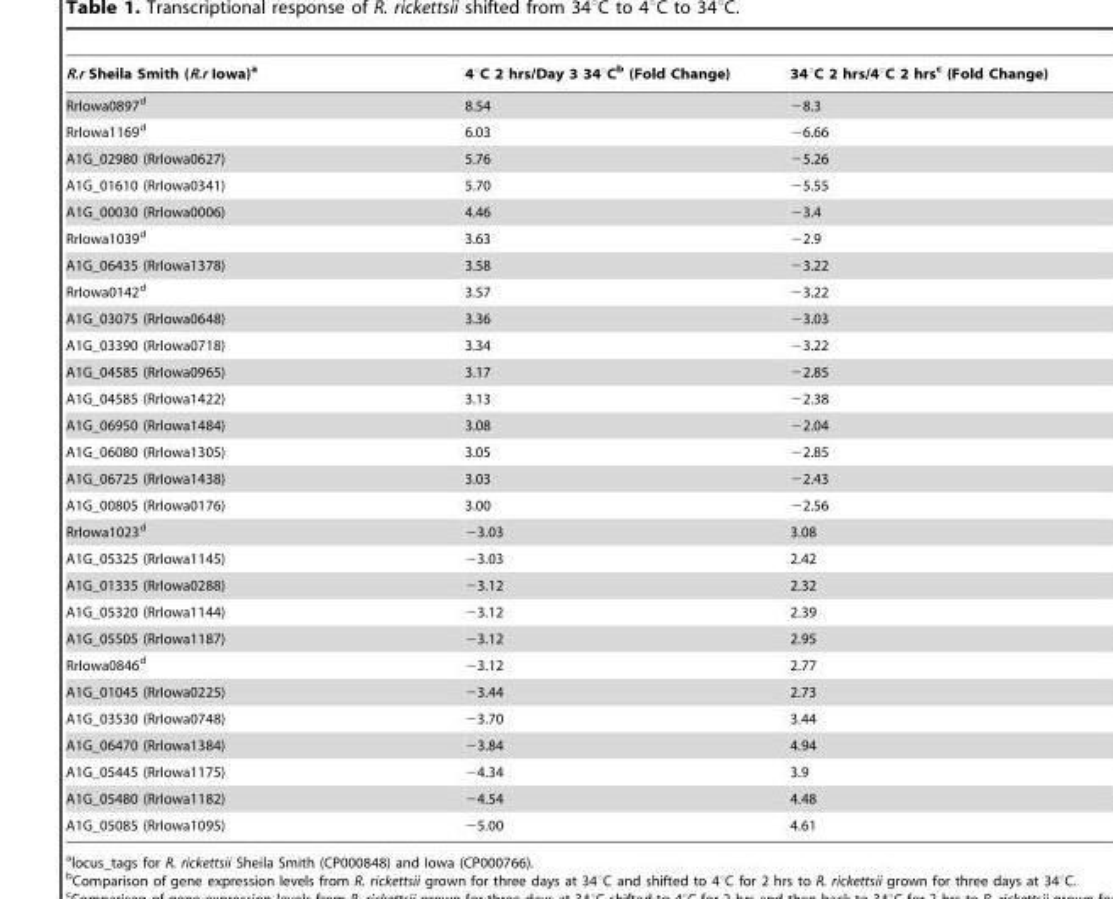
<table><thead><tr><td>R.r Sheila Smith (R.r Iowa)<sup>a</sup></td><td>4°C 2 hrs/Day 3 34°C<sup>b</sup> (Fold Change)</td><td>34°C 2 hrs/4°C 2 hrs<sup>c</sup> (Fold Change)</td></tr></thead><tbody><tr><td>RrIowa0897<sup>d</sup></td><td>8.54</td><td>−8.3</td></tr><tr><td>RrIowa1169<sup>d</sup></td><td>6.03</td><td>−6.66</td></tr><tr><td>A1G_02980 (RrIowa0627)</td><td>5.76</td><td>−5.26</td></tr><tr><td>A1G_01610 (RrIowa0341)</td><td>5.70</td><td>−5.55</td></tr><tr><td>A1G_00030 (RrIowa0006)</td><td>4.46</td><td>−3.4</td></tr><tr><td>RrIowa1039<sup>d</sup></td><td>3.63</td><td>−2.9</td></tr><tr><td>A1G_06435 (RrIowa1378)</td><td>3.58</td><td>−3.22</td></tr><tr><td>RrIowa0142<sup>d</sup></td><td>3.57</td><td>−3.22</td></tr><tr><td>A1G_03075 (RrIowa0648)</td><td>3.36</td><td>−3.03</td></tr><tr><td>A1G_03390 (RrIowa0718)</td><td>3.34</td><td>−3.22</td></tr><tr><td>A1G_04585 (RrIowa0965)</td><td>3.17</td><td>−2.85</td></tr><tr><td>A1G_04585 (RrIowa1422)</td><td>3.13</td><td>−2.38</td></tr><tr><td>A1G_06950 (RrIowa1484)</td><td>3.08</td><td>−2.04</td></tr><tr><td>A1G_06080 (RrIowa1305)</td><td>3.05</td><td>−2.85</td></tr><tr><td>A1G_06725 (RrIowa1438)</td><td>3.03</td><td>−2.43</td></tr><tr><td>A1G_00805 (RrIowa0176)</td><td>3.00</td><td>−2.56</td></tr><tr><td>RrIowa1023<sup>d</sup></td><td>−3.03</td><td>3.08</td></tr><tr><td>A1G_05325 (RrIowa1145)</td><td>−3.03</td><td>2.42</td></tr><tr><td>A1G_01335 (RrIowa0288)</td><td>−3.12</td><td>2.32</td></tr><tr><td>A1G_05320 (RrIowa1144)</td><td>−3.12</td><td>2.39</td></tr><tr><td>A1G_05505 (RrIowa1187)</td><td>−3.12</td><td>2.95</td></tr><tr><td>RrIowa0846<sup>d</sup></td><td>−3.12</td><td>2.77</td></tr><tr><td>A1G_01045 (RrIowa0225)</td><td>−3.44</td><td>2.73</td></tr><tr><td>A1G_03530 (RrIowa0748)</td><td>−3.70</td><td>3.44</td></tr><tr><td>A1G_06470 (RrIowa1384)</td><td>−3.84</td><td>4.94</td></tr><tr><td>A1G_05445 (RrIowa1175)</td><td>−4.34</td><td>3.9</td></tr><tr><td>A1G_05480 (RrIowa1182)</td><td>−4.54</td><td>4.48</td></tr><tr><td>A1G_05085 (RrIowa1095)</td><td>−5.00</td><td>4.61</td></tr></tbody></table>